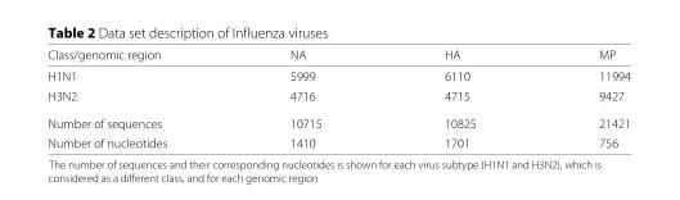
<table><thead><tr><td>Class/genomic region</td><td>NA</td><td>HA</td><td>MP</td></tr></thead><tbody><tr><td>H1N1</td><td>5999</td><td>6110</td><td>11994</td></tr><tr><td>H3N2</td><td>4716</td><td>4715</td><td>9427</td></tr><tr><td>Number of sequences</td><td>10715</td><td>10825</td><td>21421</td></tr><tr><td>Number of nucleotides</td><td>1410</td><td>1701</td><td>756</td></tr></tbody></table>